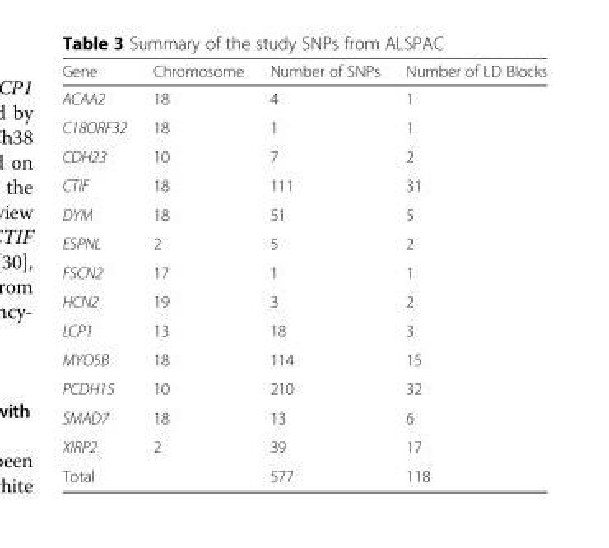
<table><thead><tr><td>Gene</td><td>Chromosome</td><td>Number of SNPs</td><td>Number of LD Blocks</td></tr></thead><tbody><tr><td>ACAA2</td><td>18</td><td>4</td><td>1</td></tr><tr><td>C18ORF32</td><td>18</td><td>1</td><td>1</td></tr><tr><td>CDH23</td><td>10</td><td>7</td><td>2</td></tr><tr><td>CTIF</td><td>18</td><td>111</td><td>31</td></tr><tr><td>DYM</td><td>18</td><td>51</td><td>5</td></tr><tr><td>ESPNL</td><td>2</td><td>5</td><td>2</td></tr><tr><td>FSCN2</td><td>17</td><td>1</td><td>1</td></tr><tr><td>HCN2</td><td>19</td><td>3</td><td>2</td></tr><tr><td>LCP1</td><td>13</td><td>18</td><td>3</td></tr><tr><td>MYO5B</td><td>18</td><td>114</td><td>15</td></tr><tr><td>PCDH15</td><td>10</td><td>210</td><td>32</td></tr><tr><td>SMAD7</td><td>18</td><td>13</td><td>6</td></tr><tr><td>XIRP2</td><td>2</td><td>39</td><td>17</td></tr><tr><td colspan="2">Total</td><td>577</td><td>118</td></tr></tbody></table>